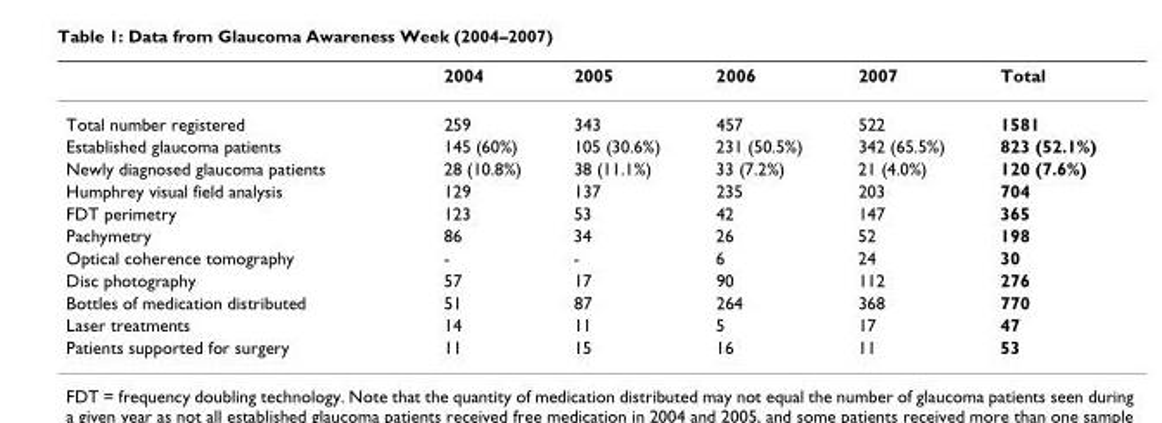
<table><thead><tr><td></td><td>2004</td><td>2005</td><td>2006</td><td>2007</td><td>Total</td></tr></thead><tbody><tr><td>Total number registered</td><td>259</td><td>343</td><td>457</td><td>522</td><td>1581</td></tr><tr><td>Established glaucoma patients</td><td>145 (60%)</td><td>105 (30.6%)</td><td>231 (50.5%)</td><td>342 (65.5%)</td><td>823 (52.1%)</td></tr><tr><td>Newly diagnosed glaucoma patients</td><td>28 (10.8%)</td><td>38 (11.1%)</td><td>33 (7.2%)</td><td>21 (4.0%)</td><td>120 (7.6%)</td></tr><tr><td>Humphrey visual field analysis</td><td>129</td><td>137</td><td>235</td><td>203</td><td>704</td></tr><tr><td>FDT perimetry</td><td>123</td><td>53</td><td>42</td><td>147</td><td>365</td></tr><tr><td>Pachymetry</td><td>86</td><td>34</td><td>26</td><td>52</td><td>198</td></tr><tr><td>Optical coherence tomography</td><td>-</td><td>-</td><td>6</td><td>24</td><td>30</td></tr><tr><td>Disc photography</td><td>57</td><td>17</td><td>90</td><td>112</td><td>276</td></tr><tr><td>Bottles of medication distributed</td><td>51</td><td>87</td><td>264</td><td>368</td><td>770</td></tr><tr><td>Laser treatments</td><td>14</td><td>11</td><td>5</td><td>17</td><td>47</td></tr><tr><td>Patients supported for surgery</td><td>11</td><td>15</td><td>16</td><td>11</td><td>53</td></tr></tbody></table>